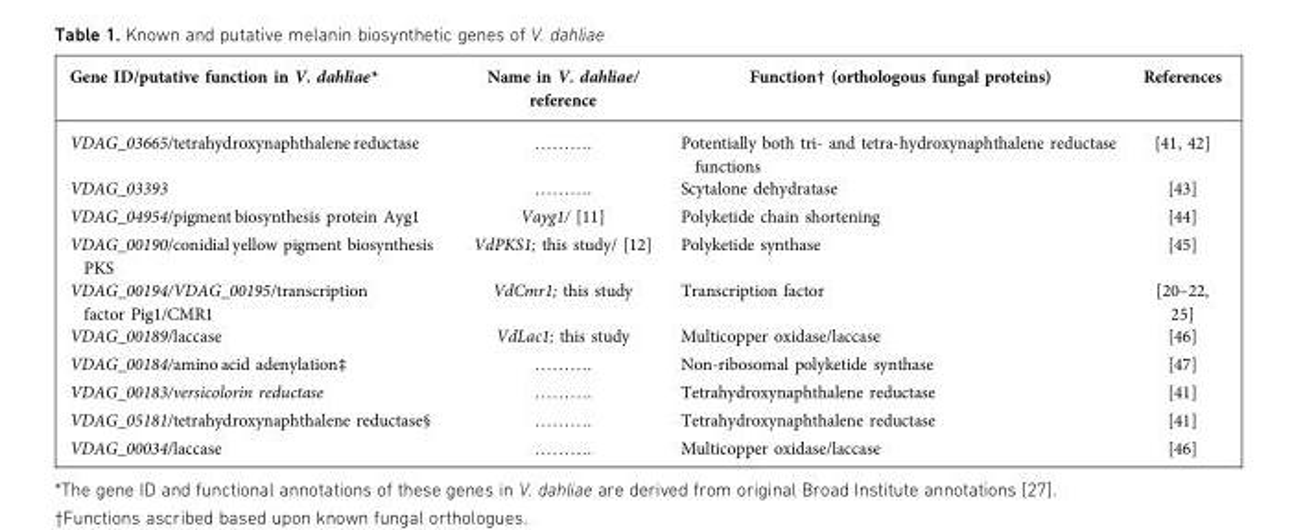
<table><thead><tr><td>Gene ID/putative function in V. dahliae*</td><td>Name in V. dahliae/ reference</td><td>Function† (orthologous fungal proteins)</td><td>References</td></tr></thead><tbody><tr><td>VDAG_03665/tetrahydroxynaphthalene reductase</td><td>……….</td><td>Potentially both tri- and tetra-hydroxynaphthalene reductase functions</td><td>[41, 42]</td></tr><tr><td>VDAG_03393</td><td>……….</td><td>Scytalone dehydratase</td><td>[43]</td></tr><tr><td>VDAG_04954/pigment biosynthesis protein Ayg1</td><td>Vayg1/ [11]</td><td>Polyketide chain shortening</td><td>[44]</td></tr><tr><td>VDAG_00190/conidial yellow pigment biosynthesis PKS</td><td>VdPKS1; this study/ [12]</td><td>Polyketide synthase</td><td>[45]</td></tr><tr><td>VDAG_00194/VDAG_00195/transcription factor Pig1/CMR1</td><td>VdCmr1; this study</td><td>Transcription factor</td><td>[20–22, 25]</td></tr><tr><td>VDAG_00189/laccase</td><td>VdLac1; this study</td><td>Multicopper oxidase/laccase</td><td>[46]</td></tr><tr><td>VDAG_00184/amino acid adenylation‡</td><td>……….</td><td>Non-ribosomal polyketide synthase</td><td>[47]</td></tr><tr><td>VDAG_00183/versicolorin reductase</td><td>……….</td><td>Tetrahydroxynaphthalene reductase</td><td>[41]</td></tr><tr><td>VDAG_05181/tetrahydroxynaphthalene reductase§</td><td>……….</td><td>Tetrahydroxynaphthalene reductase</td><td>[41]</td></tr><tr><td>VDAG_00034/laccase</td><td>……….</td><td>Multicopper oxidase/laccase</td><td>[46]</td></tr></tbody></table>